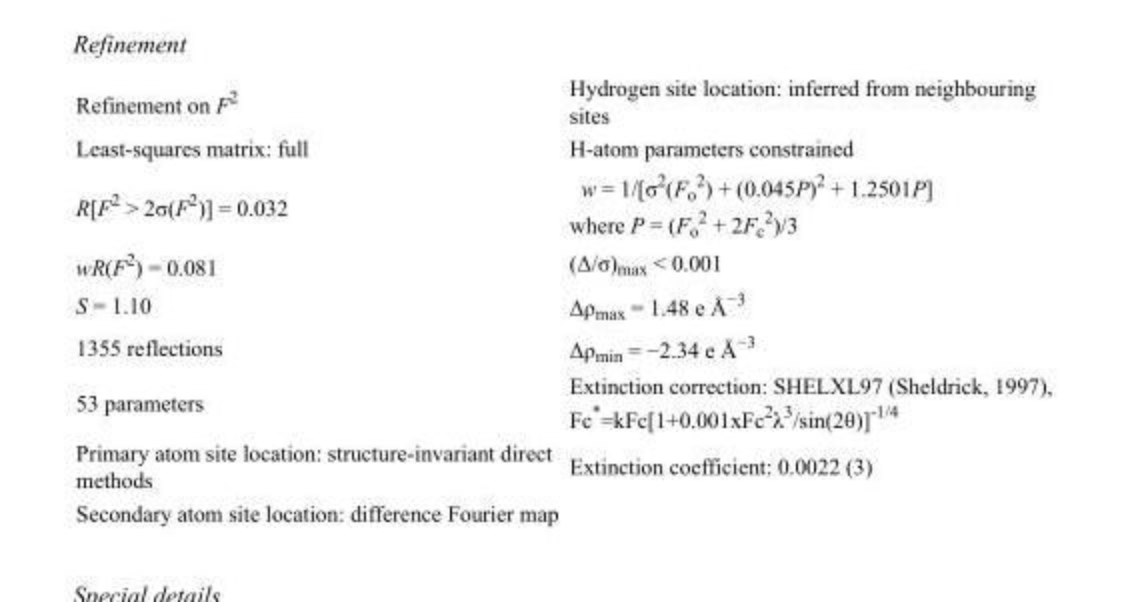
<table><tbody><tr><td>Refinement on F<sup>2</sup></td><td>Hydrogen site location: inferred from neighbouring sites</td></tr><tr><td>Least-squares matrix: full</td><td>H-atom parameters constrained</td></tr><tr><td>R[F<sup>2</sup> &gt; 2σ(F<sup>2</sup>)] = 0.032</td><td>w = 1/[σ<sup>2</sup>(F<sub>o</sub> <sup>2</sup>) + (0.045P)<sup>2</sup> + 1.2501P] where P = (F<sub>o</sub> <sup>2</sup> + 2F<sub>c</sub> <sup>2</sup>)/3</td></tr><tr><td>wR(F<sup>2</sup>) = 0.081</td><td>(Δ/σ)<sub>max</sub> &lt; 0.001</td></tr><tr><td>S = 1.10</td><td>Δρ<sub>max</sub> = 1.48 e Å<sup>−3</sup></td></tr><tr><td>1355 reflections</td><td>Δρ<sub>min</sub> = −2.34 e Å<sup>−3</sup></td></tr><tr><td>53 parameters</td><td>Extinction correction: SHELXL97 (Sheldrick, 1997), Fc*=kFc[1+0.001xFc<sup>2</sup>λ<sup>3</sup>/sin(2θ)]<sup>-1/4</sup></td></tr><tr><td>Primary atom site location: structure-invariant direct methods</td><td>Extinction coefficient: 0.0022 (3)</td></tr><tr><td>Secondary atom site location: difference Fourier map</td><td></td></tr></tbody></table>